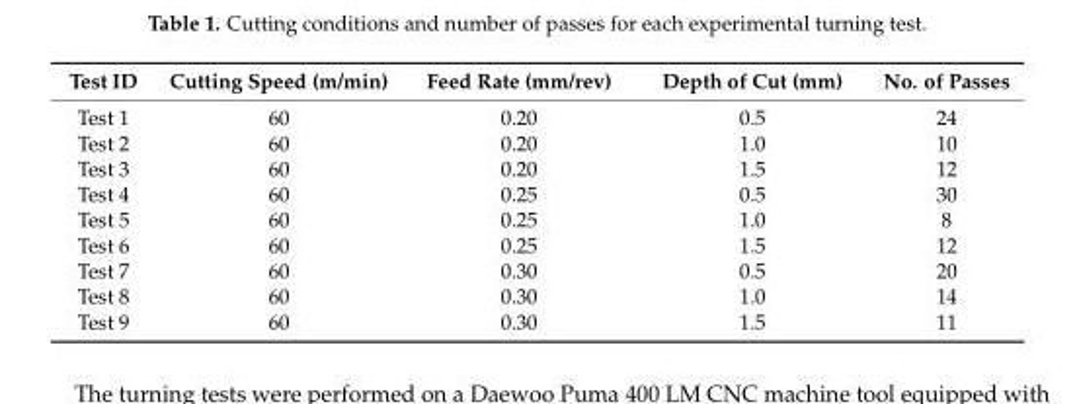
<table><thead><tr><td>Test ID</td><td>Cutting Speed (m/min)</td><td>Feed Rate (mm/rev)</td><td>Depth of Cut (mm)</td><td>No. of Passes</td></tr></thead><tbody><tr><td>Test 1</td><td>60</td><td>0.20</td><td>0.5</td><td>24</td></tr><tr><td>Test 2</td><td>60</td><td>0.20</td><td>1.0</td><td>10</td></tr><tr><td>Test 3</td><td>60</td><td>0.20</td><td>1.5</td><td>12</td></tr><tr><td>Test 4</td><td>60</td><td>0.25</td><td>0.5</td><td>30</td></tr><tr><td>Test 5</td><td>60</td><td>0.25</td><td>1.0</td><td>8</td></tr><tr><td>Test 6</td><td>60</td><td>0.25</td><td>1.5</td><td>12</td></tr><tr><td>Test 7</td><td>60</td><td>0.30</td><td>0.5</td><td>20</td></tr><tr><td>Test 8</td><td>60</td><td>0.30</td><td>1.0</td><td>14</td></tr><tr><td>Test 9</td><td>60</td><td>0.30</td><td>1.5</td><td>11</td></tr></tbody></table>